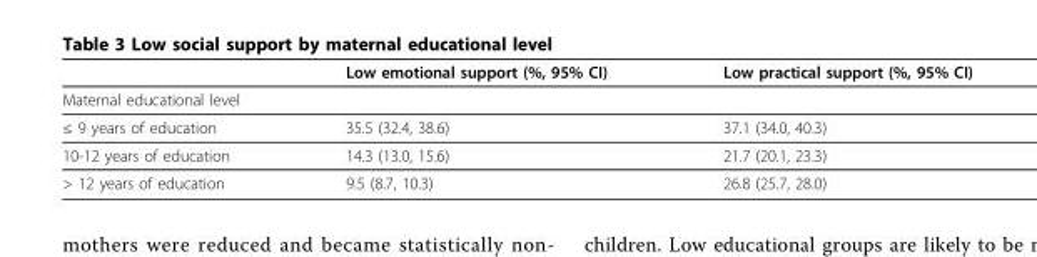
<table><thead><tr><td></td><td>Low emotional support (%, 95% CI)</td><td>Low practical support (%, 95% CI)</td></tr></thead><tbody><tr><td colspan="3">Maternal educational level</td></tr><tr><td>≤ 9 years of education</td><td>35.5 (32.4, 38.6)</td><td>37.1 (34.0, 40.3)</td></tr><tr><td>10-12 years of education</td><td>14.3 (13.0, 15.6)</td><td>21.7 (20.1, 23.3)</td></tr><tr><td>&gt; 12 years of education</td><td>9.5 (8.7, 10.3)</td><td>26.8 (25.7, 28.0)</td></tr></tbody></table>